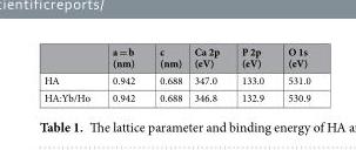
<table><thead><tr><td></td><td>a = b (nm)</td><td>c (nm)</td><td>Ca 2p (eV)</td><td>P 2p (eV)</td><td>O 1s (eV)</td></tr></thead><tbody><tr><td>HA</td><td>0.942</td><td>0.688</td><td>347.0</td><td>133.0</td><td>531.0</td></tr><tr><td>HA:Yb/Ho</td><td>0.942</td><td>0.688</td><td>346.8</td><td>132.9</td><td>530.9</td></tr></tbody></table>